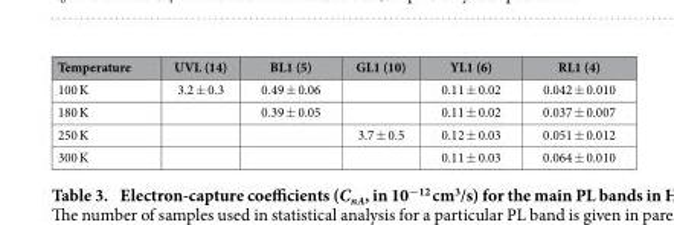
<table><thead><tr><td>Temperature</td><td>UVL (14)</td><td>BL1 (5)</td><td>GL1 (10)</td><td>YL1 (6)</td><td>RL1 (4)</td></tr></thead><tbody><tr><td>100 K</td><td>3.2 ± 0.3</td><td>0.49 ± 0.06</td><td></td><td>0.11 ± 0.02</td><td>0.042 ± 0.010</td></tr><tr><td>180 K</td><td></td><td>0.39 ± 0.05</td><td></td><td>0.11 ± 0.02</td><td>0.037 ± 0.007</td></tr><tr><td>250 K</td><td></td><td></td><td>3.7 ± 0.5</td><td>0.12 ± 0.03</td><td>0.051 ± 0.012</td></tr><tr><td>300 K</td><td></td><td></td><td></td><td>0.11 ± 0.03</td><td>0.064 ± 0.010</td></tr></tbody></table>